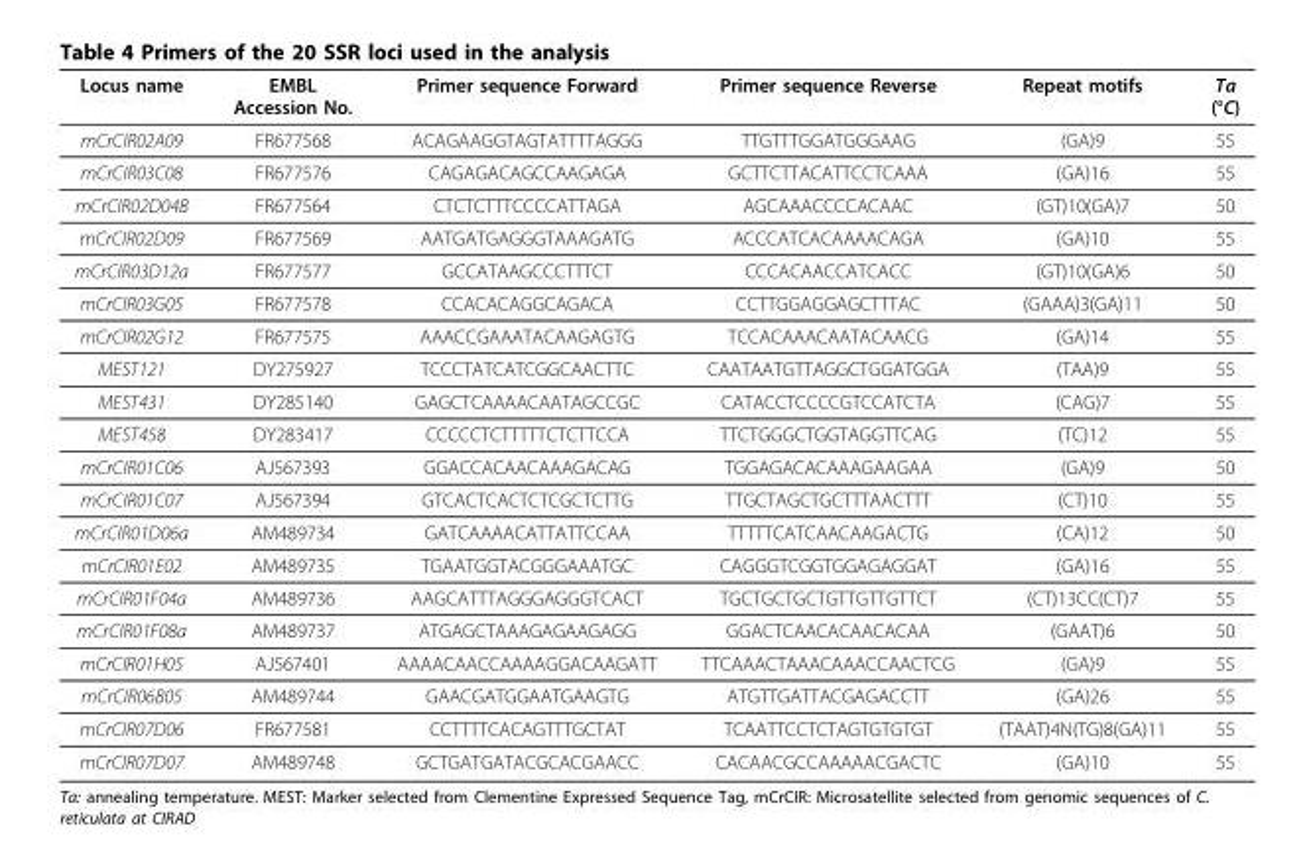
<table><thead><tr><td>Locus name</td><td>EMBL Accession No.</td><td>Primer sequence Forward</td><td>Primer sequence Reverse</td><td>Repeat motifs</td><td>Ta (°C)</td></tr></thead><tbody><tr><td>mCrCIR02A09</td><td>FR677568</td><td>ACAGAAGGTAGTATTTTAGGG</td><td>TTGTTTGGATGGGAAG</td><td>(GA)9</td><td>55</td></tr><tr><td>mCrCIR03C08</td><td>FR677576</td><td>CAGAGACAGCCAAGAGA</td><td>GCTTCTTACATTCCTCAAA</td><td>(GA)16</td><td>55</td></tr><tr><td>mCrCIR02D04B</td><td>FR677564</td><td>CTCTCTTTCCCCATTAGA</td><td>AGCAAACCCCACAAC</td><td>(GT)10(GA)7</td><td>50</td></tr><tr><td>mCrCIR02D09</td><td>FR677569</td><td>AATGATGAGGGTAAAGATG</td><td>ACCCATCACAAAACAGA</td><td>(GA)10</td><td>55</td></tr><tr><td>mCrCIR03D12a</td><td>FR677577</td><td>GCCATAAGCCCTTTCT</td><td>CCCACAACCATCACC</td><td>(GT)10(GA)6</td><td>50</td></tr><tr><td>mCrCIR03G05</td><td>FR677578</td><td>CCACACAGGCAGACA</td><td>CCTTGGAGGAGCTTTAC</td><td>(GAAA)3(GA)11</td><td>50</td></tr><tr><td>mCrCIR02G12</td><td>FR677575</td><td>AAACCGAAATACAAGAGTG</td><td>TCCACAAACAATACAACG</td><td>(GA)14</td><td>55</td></tr><tr><td>MEST121</td><td>DY275927</td><td>TCCCTATCATCGGCAACTTC</td><td>CAATAATGTTAGGCTGGATGGA</td><td>(TAA)9</td><td>55</td></tr><tr><td>MEST431</td><td>DY285140</td><td>GAGCTCAAAACAATAGCCGC</td><td>CATACCTCCCCGTCCATCTA</td><td>(CAG)7</td><td>55</td></tr><tr><td>MEST458</td><td>DY283417</td><td>CCCCCTCTTTTTCTCTTCCA</td><td>TTCTGGGCTGGTAGGTTCAG</td><td>(TC)12</td><td>55</td></tr><tr><td>mCrCIR01C06</td><td>AJ567393</td><td>GGACCACAACAAAGACAG</td><td>TGGAGACACAAAGAAGAA</td><td>(GA)9</td><td>50</td></tr><tr><td>mCrCIR01C07</td><td>AJ567394</td><td>GTCACTCACTCTCGCTCTTG</td><td>TTGCTAGCTGCTTTAACTTT</td><td>(CT)10</td><td>55</td></tr><tr><td>mCrCIR01D06a</td><td>AM489734</td><td>GATCAAAACATTATTCCAA</td><td>TTTTTCATCAACAAGACTG</td><td>(CA)12</td><td>50</td></tr><tr><td>mCrCIR01E02</td><td>AM489735</td><td>TGAATGGTACGGGAAATGC</td><td>CAGGGTCGGTGGAGAGGAT</td><td>(GA)16</td><td>55</td></tr><tr><td>mCrCIR01F04a</td><td>AM489736</td><td>AAGCATTTAGGGAGGGTCACT</td><td>TGCTGCTGCTGTTGTTGTTCT</td><td>(CT)13CC(CT)7</td><td>55</td></tr><tr><td>mCrCIR01F08a</td><td>AM489737</td><td>ATGAGCTAAAGAGAAGAGG</td><td>GGACTCAACACAACACAA</td><td>(GAAT)6</td><td>50</td></tr><tr><td>mCrCIR01H05</td><td>AJ567401</td><td>AAAACAACCAAAAGGACAAGATT</td><td>TTCAAACTAAACAAACCAACTCG</td><td>(GA)9</td><td>55</td></tr><tr><td>mCrCIR06B05</td><td>AM489744</td><td>GAACGATGGAATGAAGTG</td><td>ATGTTGATTACGAGACCTT</td><td>(GA)26</td><td>55</td></tr><tr><td>mCrCIR07D06</td><td>FR677581</td><td>CCTTTTCACAGTTTGCTAT</td><td>TCAATTCCTCTAGTGTGTGT</td><td>(TAAT)4N(TG)8(GA)11</td><td>55</td></tr><tr><td>mCrCIR07D07</td><td>AM489748</td><td>GCTGATGATACGCACGAACC</td><td>CACAACGCCAAAAACGACTC</td><td>(GA)10</td><td>55</td></tr></tbody></table>